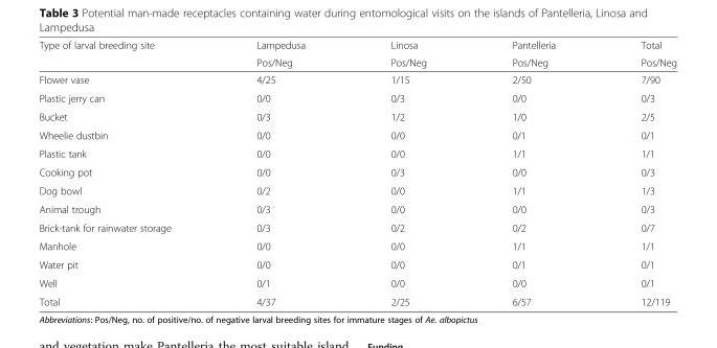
<table><thead><tr><td rowspan="2">Type of larval breeding site</td><td rowspan="2">Lampedusa Pos/Neg</td><td rowspan="2">Linosa Pos/Neg</td><td rowspan="2">Pantelleria Pos/Neg</td><td rowspan="2">Total Pos/Neg</td></tr><tr></tr></thead><tbody><tr><td>Flower vase</td><td>4/25</td><td>1/15</td><td>2/50</td><td>7/90</td></tr><tr><td>Plastic jerry can</td><td>0/0</td><td>0/3</td><td>0/0</td><td>0/3</td></tr><tr><td>Bucket</td><td>0/3</td><td>1/2</td><td>1/0</td><td>2/5</td></tr><tr><td>Wheelie dustbin</td><td>0/0</td><td>0/0</td><td>0/1</td><td>0/1</td></tr><tr><td>Plastic tank</td><td>0/0</td><td>0/0</td><td>1/1</td><td>1/1</td></tr><tr><td>Cooking pot</td><td>0/0</td><td>0/3</td><td>0/0</td><td>0/3</td></tr><tr><td>Dog bowl</td><td>0/2</td><td>0/0</td><td>1/1</td><td>1/3</td></tr><tr><td>Animal trough</td><td>0/3</td><td>0/0</td><td>0/0</td><td>0/3</td></tr><tr><td>Brick-tank for rainwater storage</td><td>0/3</td><td>0/2</td><td>0/2</td><td>0/7</td></tr><tr><td>Manhole</td><td>0/0</td><td>0/0</td><td>1/1</td><td>1/1</td></tr><tr><td>Water pit</td><td>0/0</td><td>0/0</td><td>0/1</td><td>0/1</td></tr><tr><td>Well</td><td>0/1</td><td>0/0</td><td>0/0</td><td>0/1</td></tr><tr><td>Total</td><td>4/37</td><td>2/25</td><td>6/57</td><td>12/119</td></tr></tbody></table>